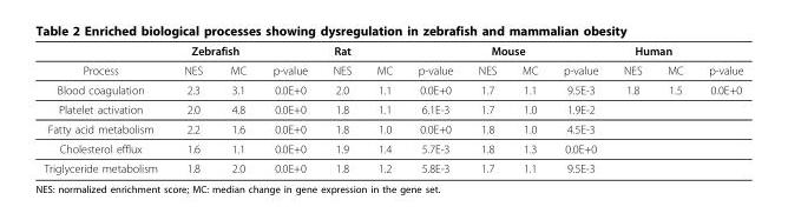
<table><thead><tr><td rowspan="2">Process</td><td colspan="2">Zebrafish</td><td rowspan="2">p-value</td><td rowspan="2">Rat NES</td><td rowspan="2">MC</td><td rowspan="2">p-value</td><td colspan="2">Mouse</td><td rowspan="2">p-value</td><td colspan="2">Human</td><td rowspan="2">p-value</td></tr><tr><td>NES</td><td>MC</td><td>NES</td><td>MC</td><td>NES</td><td>MC</td></tr></thead><tbody><tr><td>Blood coagulation</td><td>2.3</td><td>3.1</td><td>0.0E+0</td><td>2.0</td><td>1.1</td><td>0.0E+0</td><td>1.7</td><td>1.1</td><td>9.5E-3</td><td>1.8</td><td>1.5</td><td>0.0E+0</td></tr><tr><td>Platelet activation</td><td>2.0</td><td>4.8</td><td>0.0E+0</td><td>1.8</td><td>1.1</td><td>6.1E-3</td><td>1.7</td><td>1.0</td><td>1.9E-2</td><td></td><td></td><td></td></tr><tr><td>Fatty acid metabolism</td><td>2.2</td><td>1.6</td><td>0.0E+0</td><td>1.8</td><td>1.0</td><td>0.0E+0</td><td>1.8</td><td>1.0</td><td>4.5E-3</td><td></td><td></td><td></td></tr><tr><td>Cholesterol efflux</td><td>1.6</td><td>1.1</td><td>0.0E+0</td><td>1.9</td><td>1.4</td><td>5.7E-3</td><td>1.8</td><td>1.3</td><td>0.0E+0</td><td></td><td></td><td></td></tr><tr><td>Triglyceride metabolism</td><td>1.8</td><td>2.0</td><td>0.0E+0</td><td>1.8</td><td>1.2</td><td>5.8E-3</td><td>1.7</td><td>1.1</td><td>9.5E-3</td><td></td><td></td><td></td></tr></tbody></table>